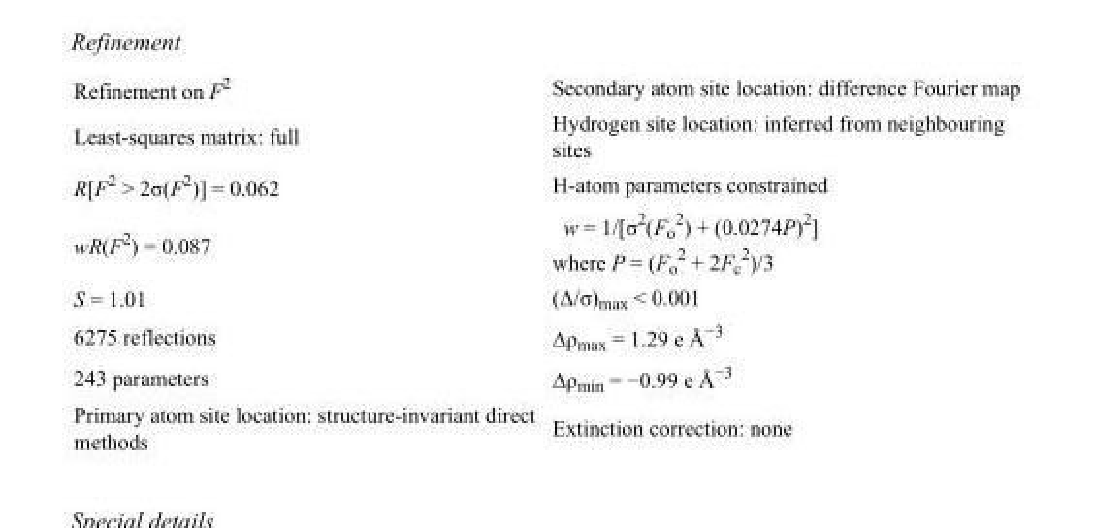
<table><tbody><tr><td>Refinement on F<sup>2</sup></td><td>Secondary atom site location: difference Fourier map</td></tr><tr><td>Least-squares matrix: full</td><td>Hydrogen site location: inferred from neighbouring sites</td></tr><tr><td>R[F<sup>2</sup> &gt; 2σ(F<sup>2</sup>)] = 0.062</td><td>H-atom parameters constrained</td></tr><tr><td>wR(F<sup>2</sup>) = 0.087</td><td>w = 1/[σ<sup>2</sup>(F<sub>o</sub> <sup>2</sup>) + (0.0274P)<sup>2</sup>] where P = (F<sub>o</sub> <sup>2</sup> + 2F<sub>c</sub> <sup>2</sup>)/3</td></tr><tr><td>S = 1.01</td><td>(Δ/σ)<sub>max</sub> &lt; 0.001</td></tr><tr><td>6275 reflections</td><td>Δρ<sub>max</sub> = 1.29 e Å<sup>−3</sup></td></tr><tr><td>243 parameters</td><td>Δρ<sub>min</sub> = −0.99 e Å<sup>−3</sup></td></tr><tr><td>Primary atom site location: structure-invariant direct methods</td><td>Extinction correction: none</td></tr></tbody></table>